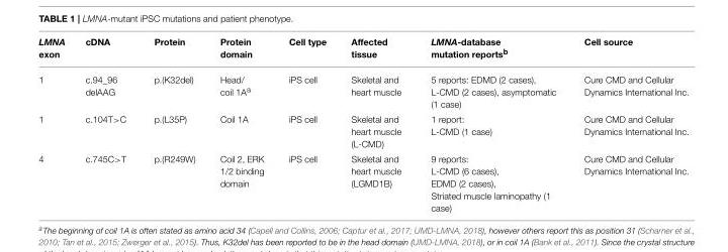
<table><thead><tr><td>LMNA exon</td><td>cDNA</td><td>Protein</td><td>Protein domain</td><td>Cell type</td><td>Affected tissue</td><td>LMNA-database mutation reports<sup>b</sup></td><td>Cell source</td></tr></thead><tbody><tr><td>1</td><td>c.94_96 delAAG</td><td>p.(K32del)</td><td>Head/ coil 1A<sup>a</sup></td><td>iPS cell</td><td>Skeletal and heart muscle</td><td>5 reports: EDMD (2 cases), L-CMD (2 cases), asymptomatic (1 case)</td><td>Cure CMD and Cellular Dynamics International Inc.</td></tr><tr><td>1</td><td>c.104T&gt;C</td><td>p.(L35P)</td><td>Coil 1A</td><td>iPS cell</td><td>Skeletal and heart muscle (L-CMD)</td><td>1 report: L-CMD (1 case)</td><td>Cure CMD and Cellular Dynamics International Inc.</td></tr><tr><td>4</td><td>c.745C&gt;T</td><td>p.(R249W)</td><td>Coil 2, ERK 1/2 binding domain</td><td>iPS cell</td><td>Skeletal and heart muscle (LGMD1B)</td><td>9 reports: L-CMD (6 cases), EDMD (2 cases), Striated muscle laminopathy (1 case)</td><td>Cure CMD and Cellular Dynamics International Inc.</td></tr></tbody></table>